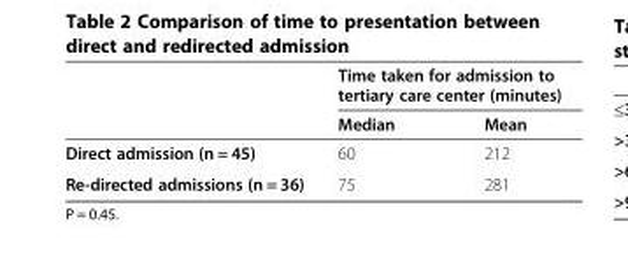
<table><thead><tr><td rowspan="2"></td><td colspan="2">Time taken for admission to tertiary care center (minutes)</td></tr><tr><td>Median</td><td>Mean</td></tr></thead><tbody><tr><td>Direct admission (n = 45)</td><td>60</td><td>212</td></tr><tr><td>Re-directed admissions (n = 36)</td><td>75</td><td>281</td></tr></tbody></table>